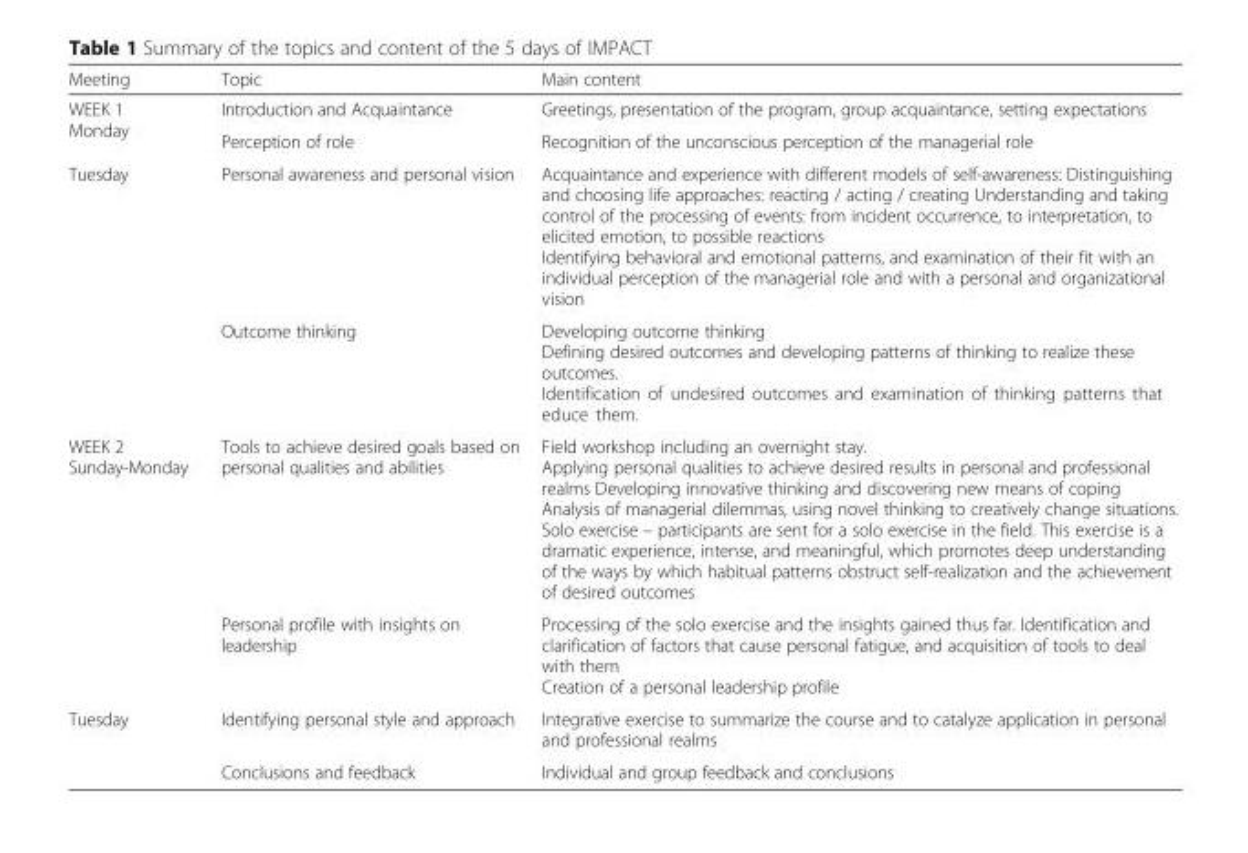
<table><thead><tr><td>Meeting</td><td>Topic</td><td>Main content</td></tr></thead><tbody><tr><td rowspan="2">WEEK 1 Monday</td><td>Introduction and Acquaintance</td><td>Greetings, presentation of the program, group acquaintance, setting expectations</td></tr><tr><td>Perception of role</td><td>Recognition of the unconscious perception of the managerial role</td></tr><tr><td rowspan="2">Tuesday</td><td>Personal awareness and personal vision</td><td>Acquaintance and experience with different models of self-awareness: Distinguishing and choosing life approaches: reacting / acting / creating Understanding and taking control of the processing of events: from incident occurrence, to interpretation, to elicited emotion, to possible reactions Identifying behavioral and emotional patterns, and examination of their fit with an individual perception of the managerial role and with a personal and organizational vision</td></tr><tr><td>Outcome thinking</td><td>Developing outcome thinking Defining desired outcomes and developing patterns of thinking to realize these outcomes. Identification of undesired outcomes and examination of thinking patterns that educe them.</td></tr><tr><td rowspan="2">WEEK 2 Sunday-Monday</td><td>Tools to achieve desired goals based on personal qualities and abilities</td><td>Field workshop including an overnight stay. Applying personal qualities to achieve desired results in personal and professional realms Developing innovative thinking and discovering new means of coping Analysis of managerial dilemmas, using novel thinking to creatively change situations. Solo exercise – participants are sent for a solo exercise in the field. This exercise is a dramatic experience, intense, and meaningful, which promotes deep understanding of the ways by which habitual patterns obstruct self-realization and the achievement of desired outcomes</td></tr><tr><td>Personal profile with insights on leadership</td><td>Processing of the solo exercise and the insights gained thus far. Identification and clarification of factors that cause personal fatigue, and acquisition of tools to deal with them Creation of a personal leadership profile</td></tr><tr><td rowspan="2">Tuesday</td><td>Identifying personal style and approach</td><td>Integrative exercise to summarize the course and to catalyze application in personal and professional realms</td></tr><tr><td>Conclusions and feedback</td><td>Individual and group feedback and conclusions</td></tr></tbody></table>